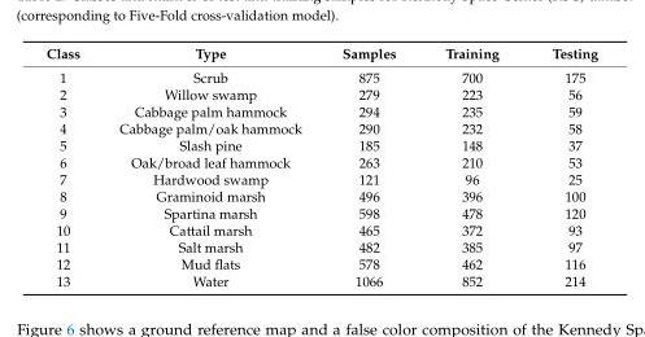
<table><thead><tr><td>Class</td><td>Type</td><td>Samples</td><td>Training</td><td>Testing</td></tr></thead><tbody><tr><td>1</td><td>Scrub</td><td>875</td><td>700</td><td>175</td></tr><tr><td>2</td><td>Willow swamp</td><td>279</td><td>223</td><td>56</td></tr><tr><td>3</td><td>Cabbage palm hammock</td><td>294</td><td>235</td><td>59</td></tr><tr><td>4</td><td>Cabbage palm/oak hammock</td><td>290</td><td>232</td><td>58</td></tr><tr><td>5</td><td>Slash pine</td><td>185</td><td>148</td><td>37</td></tr><tr><td>6</td><td>Oak/broad leaf hammock</td><td>263</td><td>210</td><td>53</td></tr><tr><td>7</td><td>Hardwood swamp</td><td>121</td><td>96</td><td>25</td></tr><tr><td>8</td><td>Graminoid marsh</td><td>496</td><td>396</td><td>100</td></tr><tr><td>9</td><td>Spartina marsh</td><td>598</td><td>478</td><td>120</td></tr><tr><td>10</td><td>Cattail marsh</td><td>465</td><td>372</td><td>93</td></tr><tr><td>11</td><td>Salt marsh</td><td>482</td><td>385</td><td>97</td></tr><tr><td>12</td><td>Mud flats</td><td>578</td><td>462</td><td>116</td></tr><tr><td>13</td><td>Water</td><td>1066</td><td>852</td><td>214</td></tr></tbody></table>